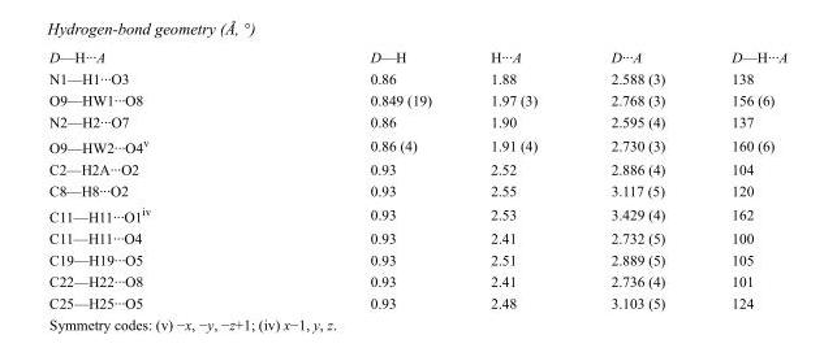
<table><tbody><tr><td>D—H···A</td><td>D—H</td><td>H···A</td><td>D···A</td><td>D—H···A</td></tr><tr><td>N1—H1···O3</td><td>0.86</td><td>1.88</td><td>2.588 (3)</td><td>138</td></tr><tr><td>O9—HW1···O8</td><td>0.849 (19)</td><td>1.97 (3)</td><td>2.768 (3)</td><td>156 (6)</td></tr><tr><td>N2—H2···O7</td><td>0.86</td><td>1.90</td><td>2.595 (4)</td><td>137</td></tr><tr><td>O9—HW2···O4<sup>v</sup></td><td>0.86 (4)</td><td>1.91 (4)</td><td>2.730 (3)</td><td>160 (6)</td></tr><tr><td>C2—H2A···O2</td><td>0.93</td><td>2.52</td><td>2.886 (4)</td><td>104</td></tr><tr><td>C8—H8···O2</td><td>0.93</td><td>2.55</td><td>3.117 (5)</td><td>120</td></tr><tr><td>C11—H11···O1<sup>iv</sup></td><td>0.93</td><td>2.53</td><td>3.429 (4)</td><td>162</td></tr><tr><td>C11—H11···O4</td><td>0.93</td><td>2.41</td><td>2.732 (5)</td><td>100</td></tr><tr><td>C19—H19···O5</td><td>0.93</td><td>2.51</td><td>2.889 (5)</td><td>105</td></tr><tr><td>C22—H22···O8</td><td>0.93</td><td>2.41</td><td>2.736 (4)</td><td>101</td></tr><tr><td>C25—H25···O5</td><td>0.93</td><td>2.48</td><td>3.103 (5)</td><td>124</td></tr></tbody></table>